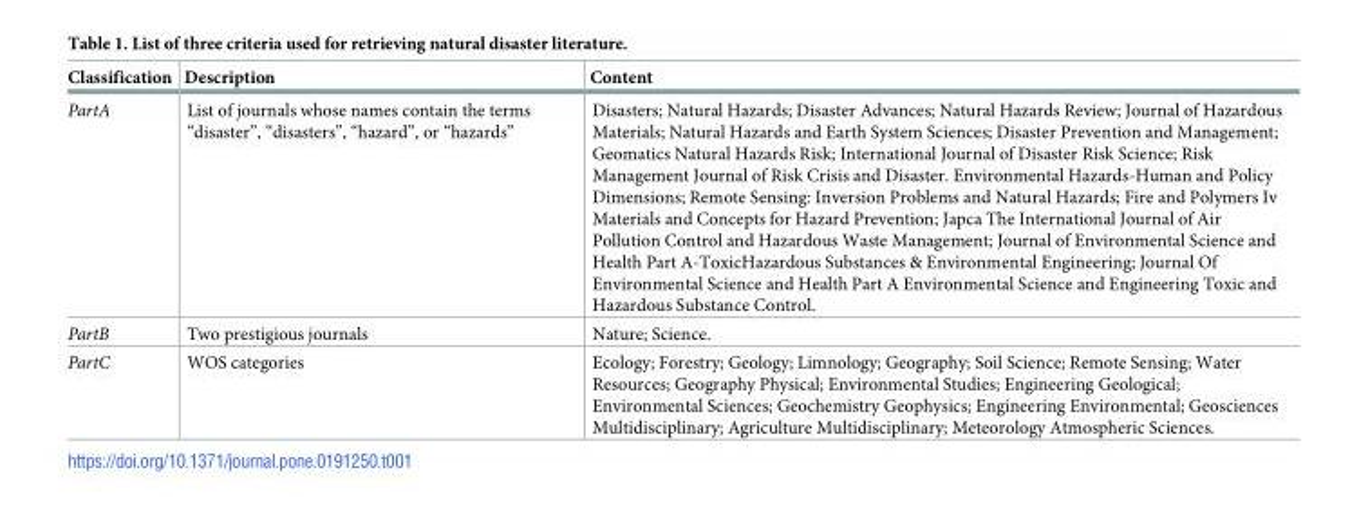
<table><thead><tr><td>Classification</td><td>Description</td><td>Content</td></tr></thead><tbody><tr><td>PartA</td><td>List of journals whose names contain the terms “disaster”, “disasters”, “hazard”, or “hazards”</td><td>Disasters; Natural Hazards; Disaster Advances; Natural Hazards Review; Journal of Hazardous Materials; Natural Hazards and Earth System Sciences; Disaster Prevention and Management; Geomatics Natural Hazards Risk; International Journal of Disaster Risk Science; Risk Management Journal of Risk Crisis and Disaster. Environmental Hazards-Human and Policy Dimensions; Remote Sensing: Inversion Problems and Natural Hazards; Fire and Polymers Iv Materials and Concepts for Hazard Prevention; Japca The International Journal of Air Pollution Control and Hazardous Waste Management; Journal of Environmental Science and Health Part A-ToxicHazardous Substances &amp; Environmental Engineering; Journal Of Environmental Science and Health Part A Environmental Science and Engineering Toxic and Hazardous Substance Control.</td></tr><tr><td>PartB</td><td>Two prestigious journals</td><td>Nature; Science.</td></tr><tr><td>PartC</td><td>WOS categories</td><td>Ecology; Forestry; Geology; Limnology; Geography; Soil Science; Remote Sensing; Water Resources; Geography Physical; Environmental Studies; Engineering Geological; Environmental Sciences; Geochemistry Geophysics; Engineering Environmental; Geosciences Multidisciplinary; Agriculture Multidisciplinary; Meteorology Atmospheric Sciences.</td></tr></tbody></table>